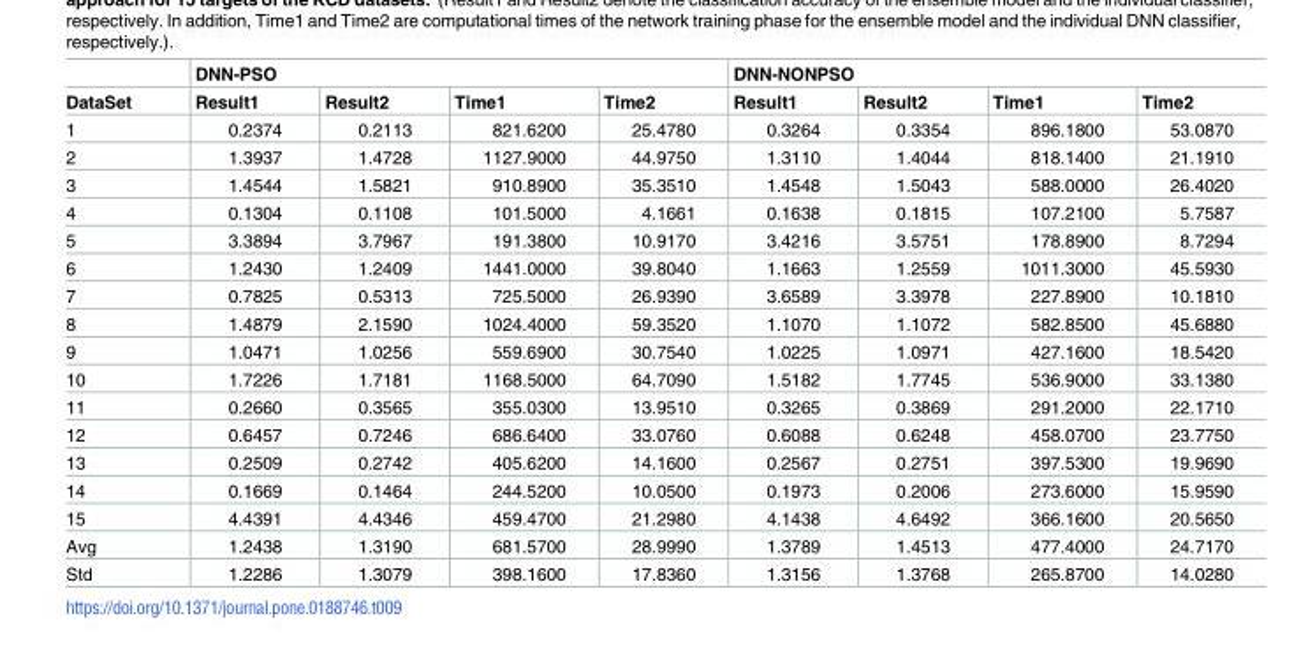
<table><thead><tr><td rowspan="2">DataSet</td><td colspan="4">DNN-PSO</td><td colspan="4">DNN-NONPSO</td></tr><tr><td>Result1</td><td>Result2</td><td>Time1</td><td>Time2</td><td>Result1</td><td>Result2</td><td>Time1</td><td>Time2</td></tr></thead><tbody><tr><td>1</td><td>0.2374</td><td>0.2113</td><td>821.6200</td><td>25.4780</td><td>0.3264</td><td>0.3354</td><td>896.1800</td><td>53.0870</td></tr><tr><td>2</td><td>1.3937</td><td>1.4728</td><td>1127.9000</td><td>44.9750</td><td>1.3110</td><td>1.4044</td><td>818.1400</td><td>21.1910</td></tr><tr><td>3</td><td>1.4544</td><td>1.5821</td><td>910.8900</td><td>35.3510</td><td>1.4548</td><td>1.5043</td><td>588.0000</td><td>26.4020</td></tr><tr><td>4</td><td>0.1304</td><td>0.1108</td><td>101.5000</td><td>4.1661</td><td>0.1638</td><td>0.1815</td><td>107.2100</td><td>5.7587</td></tr><tr><td>5</td><td>3.3894</td><td>3.7967</td><td>191.3800</td><td>10.9170</td><td>3.4216</td><td>3.5751</td><td>178.8900</td><td>8.7294</td></tr><tr><td>6</td><td>1.2430</td><td>1.2409</td><td>1441.0000</td><td>39.8040</td><td>1.1663</td><td>1.2559</td><td>1011.3000</td><td>45.5930</td></tr><tr><td>7</td><td>0.7825</td><td>0.5313</td><td>725.5000</td><td>26.9390</td><td>3.6589</td><td>3.3978</td><td>227.8900</td><td>10.1810</td></tr><tr><td>8</td><td>1.4879</td><td>2.1590</td><td>1024.4000</td><td>59.3520</td><td>1.1070</td><td>1.1072</td><td>582.8500</td><td>45.6880</td></tr><tr><td>9</td><td>1.0471</td><td>1.0256</td><td>559.6900</td><td>30.7540</td><td>1.0225</td><td>1.0971</td><td>427.1600</td><td>18.5420</td></tr><tr><td>10</td><td>1.7226</td><td>1.7181</td><td>1168.5000</td><td>64.7090</td><td>1.5182</td><td>1.7745</td><td>536.9000</td><td>33.1380</td></tr><tr><td>11</td><td>0.2660</td><td>0.3565</td><td>355.0300</td><td>13.9510</td><td>0.3265</td><td>0.3869</td><td>291.2000</td><td>22.1710</td></tr><tr><td>12</td><td>0.6457</td><td>0.7246</td><td>686.6400</td><td>33.0760</td><td>0.6088</td><td>0.6248</td><td>458.0700</td><td>23.7750</td></tr><tr><td>13</td><td>0.2509</td><td>0.2742</td><td>405.6200</td><td>14.1600</td><td>0.2567</td><td>0.2751</td><td>397.5300</td><td>19.9690</td></tr><tr><td>14</td><td>0.1669</td><td>0.1464</td><td>244.5200</td><td>10.0500</td><td>0.1973</td><td>0.2006</td><td>273.6000</td><td>15.9590</td></tr><tr><td>15</td><td>4.4391</td><td>4.4346</td><td>459.4700</td><td>21.2980</td><td>4.1438</td><td>4.6492</td><td>366.1600</td><td>20.5650</td></tr><tr><td>Avg</td><td>1.2438</td><td>1.3190</td><td>681.5700</td><td>28.9990</td><td>1.3789</td><td>1.4513</td><td>477.4000</td><td>24.7170</td></tr><tr><td>Std</td><td>1.2286</td><td>1.3079</td><td>398.1600</td><td>17.8360</td><td>1.3156</td><td>1.3768</td><td>265.8700</td><td>14.0280</td></tr></tbody></table>